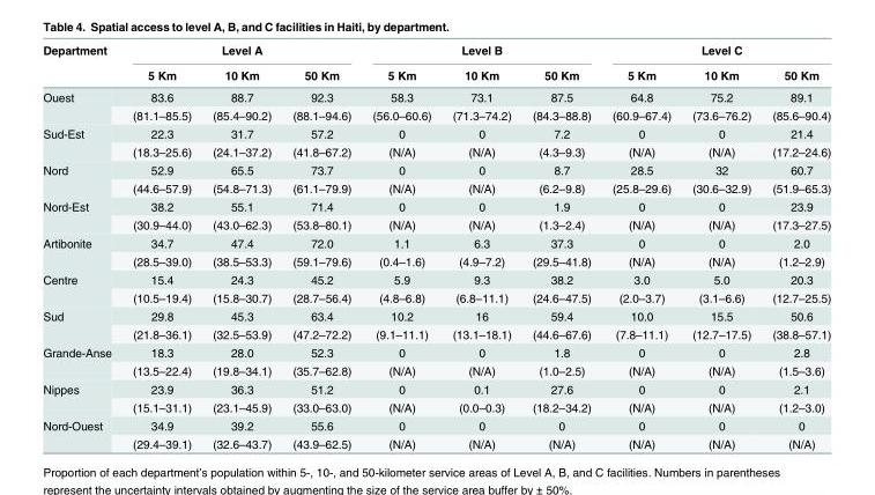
<table><thead><tr><td rowspan="2">Department</td><td colspan="3">Level A</td><td colspan="3">Level B</td><td colspan="3">Level C</td></tr><tr><td>5 Km</td><td>10 Km</td><td>50 Km</td><td>5 Km</td><td>10 Km</td><td>50 Km</td><td>5 Km</td><td>10 Km</td><td>50 Km</td></tr></thead><tbody><tr><td rowspan="2">Ouest</td><td>83.6</td><td>88.7</td><td>92.3</td><td>58.3</td><td>73.1</td><td>87.5</td><td>64.8</td><td>75.2</td><td>89.1</td></tr><tr><td>(81.1–85.5)</td><td>(85.4–90.2)</td><td>(88.1–94.6)</td><td>(56.0–60.6)</td><td>(71.3–74.2)</td><td>(84.3–88.8)</td><td>(60.9–67.4)</td><td>(73.6–76.2)</td><td>(85.6–90.4)</td></tr><tr><td rowspan="2">Sud-Est</td><td>22.3</td><td>31.7</td><td>57.2</td><td>0</td><td>0</td><td>7.2</td><td>0</td><td>0</td><td>21.4</td></tr><tr><td>(18.3–25.6)</td><td>(24.1–37.2)</td><td>(41.8–67.2)</td><td>(N/A)</td><td>(N/A)</td><td>(4.3–9.3)</td><td>(N/A)</td><td>(N/A)</td><td>(17.2–24.6)</td></tr><tr><td rowspan="2">Nord</td><td>52.9</td><td>65.5</td><td>73.7</td><td>0</td><td>0</td><td>8.7</td><td>28.5</td><td>32</td><td>60.7</td></tr><tr><td>(44.6–57.9)</td><td>(54.8–71.3)</td><td>(61.1–79.9)</td><td>(N/A)</td><td>(N/A)</td><td>(6.2–9.8)</td><td>(25.8–29.6)</td><td>(30.6–32.9)</td><td>(51.9–65.3)</td></tr><tr><td rowspan="2">Nord-Est</td><td>38.2</td><td>55.1</td><td>71.4</td><td>0</td><td>0</td><td>1.9</td><td>0</td><td>0</td><td>23.9</td></tr><tr><td>(30.9–44.0)</td><td>(43.0–62.3)</td><td>(53.8–80.1)</td><td>(N/A)</td><td>(N/A)</td><td>(1.3–2.4)</td><td>(N/A)</td><td>(N/A)</td><td>(17.3–27.5)</td></tr><tr><td rowspan="2">Artibonite</td><td>34.7</td><td>47.4</td><td>72.0</td><td>1.1</td><td>6.3</td><td>37.3</td><td>0</td><td>0</td><td>2.0</td></tr><tr><td>(28.5–39.0)</td><td>(38.5–53.3)</td><td>(59.1–79.6)</td><td>(0.4–1.6)</td><td>(4.9–7.2)</td><td>(29.5–41.8)</td><td>(N/A)</td><td>(N/A)</td><td>(1.2–2.9)</td></tr><tr><td rowspan="2">Centre</td><td>15.4</td><td>24.3</td><td>45.2</td><td>5.9</td><td>9.3</td><td>38.2</td><td>3.0</td><td>5.0</td><td>20.3</td></tr><tr><td>(10.5–19.4)</td><td>(15.8–30.7)</td><td>(28.7–56.4)</td><td>(4.8–6.8)</td><td>(6.8–11.1)</td><td>(24.6–47.5)</td><td>(2.0–3.7)</td><td>(3.1–6.6)</td><td>(12.7–25.5)</td></tr><tr><td rowspan="2">Sud</td><td>29.8</td><td>45.3</td><td>63.4</td><td>10.2</td><td>16</td><td>59.4</td><td>10.0</td><td>15.5</td><td>50.6</td></tr><tr><td>(21.8–36.1)</td><td>(32.5–53.9)</td><td>(47.2–72.2)</td><td>(9.1–11.1)</td><td>(13.1–18.1)</td><td>(44.6–67.6)</td><td>(7.8–11.1)</td><td>(12.7–17.5)</td><td>(38.8–57.1)</td></tr><tr><td rowspan="2">Grande-Anse</td><td>18.3</td><td>28.0</td><td>52.3</td><td>0</td><td>0</td><td>1.8</td><td>0</td><td>0</td><td>2.8</td></tr><tr><td>(13.5–22.4)</td><td>(19.8–34.1)</td><td>(35.7–62.8)</td><td>(N/A)</td><td>(N/A)</td><td>(1.0–2.5)</td><td>(N/A)</td><td>(N/A)</td><td>(1.5–3.6)</td></tr><tr><td rowspan="2">Nippes</td><td>23.9</td><td>36.3</td><td>51.2</td><td>0</td><td>0.1</td><td>27.6</td><td>0</td><td>0</td><td>2.1</td></tr><tr><td>(15.1–31.1)</td><td>(23.1–45.9)</td><td>(33.0–63.0)</td><td>(N/A)</td><td>(0.0–0.3)</td><td>(18.2–34.2)</td><td>(N/A)</td><td>(N/A)</td><td>(1.2–3.0)</td></tr><tr><td rowspan="2">Nord-Ouest</td><td>34.9</td><td>39.2</td><td>55.6</td><td>0</td><td>0</td><td>0</td><td>0</td><td>0</td><td>0</td></tr><tr><td>(29.4–39.1)</td><td>(32.6–43.7)</td><td>(43.9–62.5)</td><td>(N/A)</td><td>(N/A)</td><td>(N/A)</td><td>(N/A)</td><td>(N/A)</td><td>(N/A)</td></tr></tbody></table>